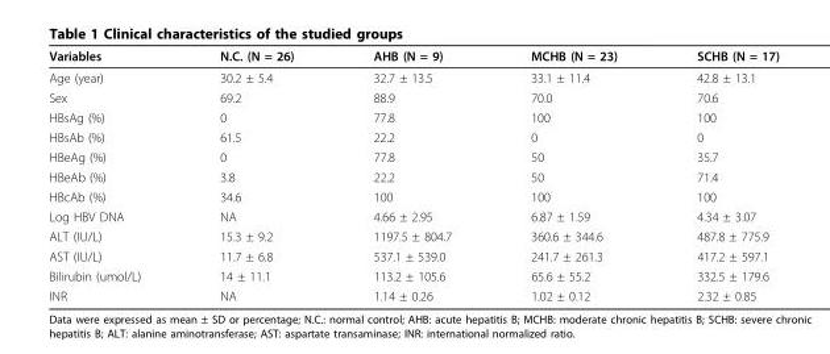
<table><thead><tr><td>Variables</td><td>N.C. (N = 26)</td><td>AHB (N = 9)</td><td>MCHB (N = 23)</td><td>SCHB (N = 17)</td></tr></thead><tbody><tr><td>Age (year)</td><td>30.2 ± 5.4</td><td>32.7 ± 13.5</td><td>33.1 ± 11.4</td><td>42.8 ± 13.1</td></tr><tr><td>Sex</td><td>69.2</td><td>88.9</td><td>70.0</td><td>70.6</td></tr><tr><td>HBsAg (%)</td><td>0</td><td>77.8</td><td>100</td><td>100</td></tr><tr><td>HBsAb (%)</td><td>61.5</td><td>22.2</td><td>0</td><td>0</td></tr><tr><td>HBeAg (%)</td><td>0</td><td>77.8</td><td>50</td><td>35.7</td></tr><tr><td>HBeAb (%)</td><td>3.8</td><td>22.2</td><td>50</td><td>71.4</td></tr><tr><td>HBcAb (%)</td><td>34.6</td><td>100</td><td>100</td><td>100</td></tr><tr><td>Log HBV DNA</td><td>NA</td><td>4.66 ± 2.95</td><td>6.87 ± 1.59</td><td>4.34 ± 3.07</td></tr><tr><td>ALT (IU/L)</td><td>15.3 ± 9.2</td><td>1197.5 ± 804.7</td><td>360.6 ± 344.6</td><td>487.8 ± 775.9</td></tr><tr><td>AST (IU/L)</td><td>11.7 ± 6.8</td><td>537.1 ± 539.0</td><td>241.7 ± 261.3</td><td>417.2 ± 597.1</td></tr><tr><td>Bilirubin (umol/L)</td><td>14 ± 11.1</td><td>113.2 ± 105.6</td><td>65.6 ± 55.2</td><td>332.5 ± 179.6</td></tr><tr><td>INR</td><td>NA</td><td>1.14 ± 0.26</td><td>1.02 ± 0.12</td><td>2.32 ± 0.85</td></tr></tbody></table>